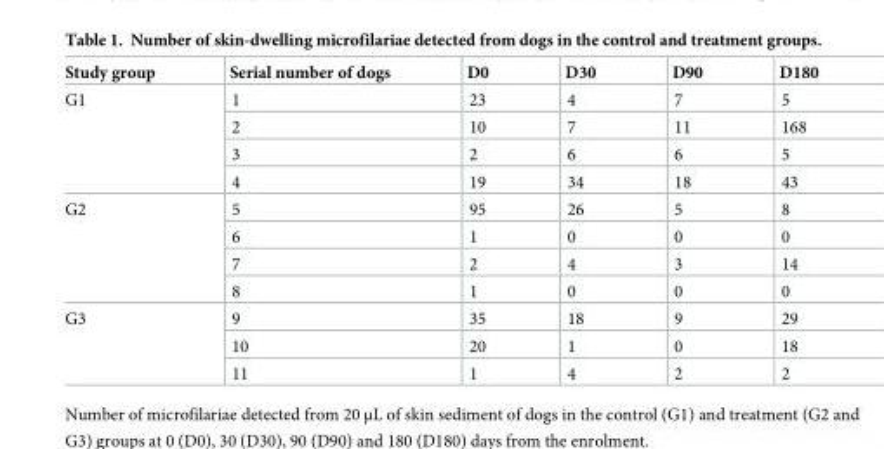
<table><thead><tr><td>Study group</td><td>Serial number of dogs</td><td>D0</td><td>D30</td><td>D90</td><td>D180</td></tr></thead><tbody><tr><td rowspan="4">G1</td><td>1</td><td>23</td><td>4</td><td>7</td><td>5</td></tr><tr><td>2</td><td>10</td><td>7</td><td>11</td><td>168</td></tr><tr><td>3</td><td>2</td><td>6</td><td>6</td><td>5</td></tr><tr><td>4</td><td>19</td><td>34</td><td>18</td><td>43</td></tr><tr><td rowspan="4">G2</td><td>5</td><td>95</td><td>26</td><td>5</td><td>8</td></tr><tr><td>6</td><td>1</td><td>0</td><td>0</td><td>0</td></tr><tr><td>7</td><td>2</td><td>4</td><td>3</td><td>14</td></tr><tr><td>8</td><td>1</td><td>0</td><td>0</td><td>0</td></tr><tr><td rowspan="3">G3</td><td>9</td><td>35</td><td>18</td><td>9</td><td>29</td></tr><tr><td>10</td><td>20</td><td>1</td><td>0</td><td>18</td></tr><tr><td>11</td><td>1</td><td>4</td><td>2</td><td>2</td></tr></tbody></table>